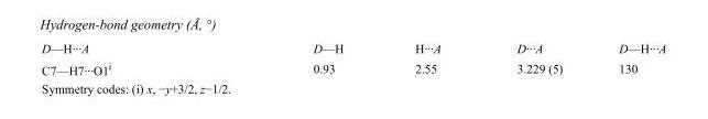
<table><tbody><tr><td>D—H···A</td><td>D—H</td><td>H···A</td><td>D···A</td><td>D—H···A</td></tr><tr><td>C7—H7···O1<sup>i</sup></td><td>0.93</td><td>2.55</td><td>3.229 (5)</td><td>130</td></tr></tbody></table>